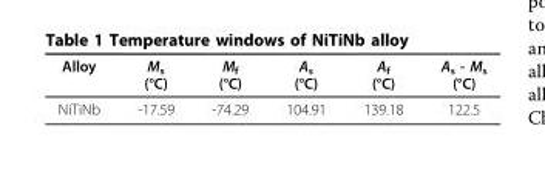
<table><thead><tr><td>Alloy</td><td>M<sub>s</sub> (°C)</td><td>M<sub>f</sub> (°C)</td><td>A<sub>s</sub> (°C)</td><td>A<sub>f</sub> (°C)</td><td>A<sub>s</sub> - M<sub>s</sub> (°C)</td></tr></thead><tbody><tr><td>NiTiNb</td><td>-17.59</td><td>-74.29</td><td>104.91</td><td>139.18</td><td>122.5</td></tr></tbody></table>